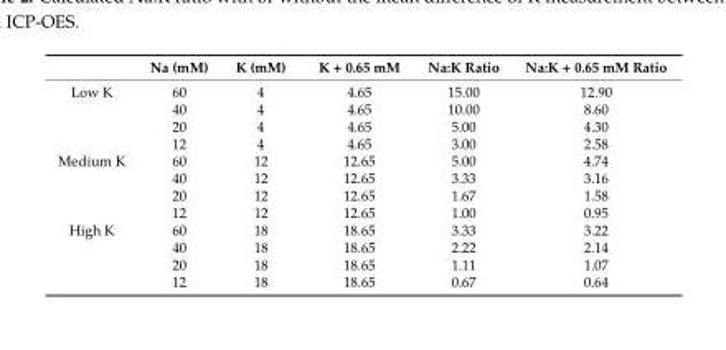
<table><thead><tr><td></td><td>Na (mM)</td><td>K (mM)</td><td>K + 0.65 mM</td><td>Na:K Ratio</td><td>Na:K + 0.65 mM Ratio</td></tr></thead><tbody><tr><td rowspan="4">Low K</td><td>60</td><td>4</td><td>4.65</td><td>15.00</td><td>12.90</td></tr><tr><td>40</td><td>4</td><td>4.65</td><td>10.00</td><td>8.60</td></tr><tr><td>20</td><td>4</td><td>4.65</td><td>5.00</td><td>4.30</td></tr><tr><td>12</td><td>4</td><td>4.65</td><td>3.00</td><td>2.58</td></tr><tr><td rowspan="4">Medium K</td><td>60</td><td>12</td><td>12.65</td><td>5.00</td><td>4.74</td></tr><tr><td>40</td><td>12</td><td>12.65</td><td>3.33</td><td>3.16</td></tr><tr><td>20</td><td>12</td><td>12.65</td><td>1.67</td><td>1.58</td></tr><tr><td>12</td><td>12</td><td>12.65</td><td>1.00</td><td>0.95</td></tr><tr><td rowspan="4">High K</td><td>60</td><td>18</td><td>18.65</td><td>3.33</td><td>3.22</td></tr><tr><td>40</td><td>18</td><td>18.65</td><td>2.22</td><td>2.14</td></tr><tr><td>20</td><td>18</td><td>18.65</td><td>1.11</td><td>1.07</td></tr><tr><td>12</td><td>18</td><td>18.65</td><td>0.67</td><td>0.64</td></tr></tbody></table>